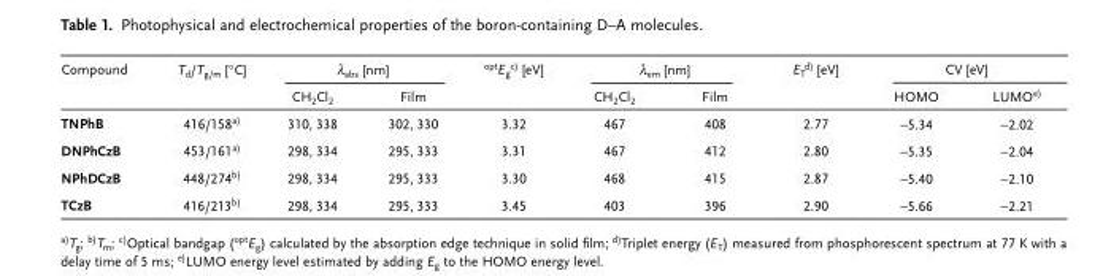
<table><thead><tr><td rowspan="2">Compound</td><td rowspan="2">T<sub>d</sub>/T<sub>g/m</sub> [°C]</td><td colspan="2">λ<sub>abs</sub> [nm]</td><td rowspan="2"><sup>opt</sup>E<sub>g</sub>c) [eV]</td><td colspan="2">λ<sub>em</sub> [nm]</td><td rowspan="2">E<sub>T</sub>d) [eV]</td><td colspan="2">CV [eV]</td></tr><tr><td>CH<sub>2</sub>Cl<sub>2</sub></td><td>Film</td><td>CH<sub>2</sub>Cl<sub>2</sub></td><td>Film</td><td>HOMO</td><td>LUMOe)</td></tr></thead><tbody><tr><td>TNPhB</td><td>416/158a)</td><td>310, 338</td><td>302, 330</td><td>3.32</td><td>467</td><td>408</td><td>2.77</td><td>−5.34</td><td>−2.02</td></tr><tr><td>DNPhCzB</td><td>453/161a)</td><td>298, 334</td><td>295, 333</td><td>3.31</td><td>467</td><td>412</td><td>2.80</td><td>−5.35</td><td>−2.04</td></tr><tr><td>NPhDCzB</td><td>448/274b)</td><td>298, 334</td><td>295, 333</td><td>3.30</td><td>468</td><td>415</td><td>2.87</td><td>−5.40</td><td>−2.10</td></tr><tr><td>TCzB</td><td>416/213b)</td><td>298, 334</td><td>295, 333</td><td>3.45</td><td>403</td><td>396</td><td>2.90</td><td>−5.66</td><td>−2.21</td></tr></tbody></table>